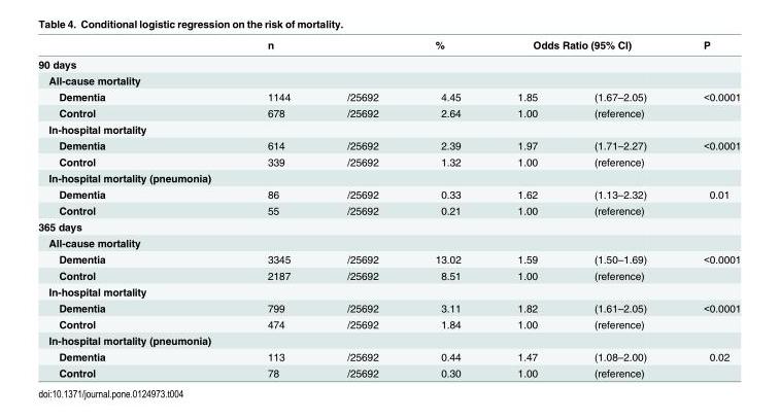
<table><thead><tr><td rowspan="2">90 days</td><td rowspan="2">n</td><td rowspan="2"></td><td rowspan="2">%</td><td colspan="2">Odds Ratio (95% CI)</td><td rowspan="2">P</td></tr><tr><td></td><td></td></tr></thead><tbody><tr><td colspan="7">All-cause mortality</td></tr><tr><td>Dementia</td><td>1144</td><td>/25692</td><td>4.45</td><td>1.85</td><td>(1.67–2.05)</td><td>&lt;0.0001</td></tr><tr><td>Control</td><td>678</td><td>/25692</td><td>2.64</td><td>1.00</td><td>(reference)</td><td></td></tr><tr><td colspan="7">In-hospital mortality</td></tr><tr><td>Dementia</td><td>614</td><td>/25692</td><td>2.39</td><td>1.97</td><td>(1.71–2.27)</td><td>&lt;0.0001</td></tr><tr><td>Control</td><td>339</td><td>/25692</td><td>1.32</td><td>1.00</td><td>(reference)</td><td></td></tr><tr><td colspan="7">In-hospital mortality (pneumonia)</td></tr><tr><td>Dementia</td><td>86</td><td>/25692</td><td>0.33</td><td>1.62</td><td>(1.13–2.32)</td><td>0.01</td></tr><tr><td>Control</td><td>55</td><td>/25692</td><td>0.21</td><td>1.00</td><td>(reference)</td><td></td></tr><tr><td colspan="7">365 days</td></tr><tr><td colspan="7">All-cause mortality</td></tr><tr><td>Dementia</td><td>3345</td><td>/25692</td><td>13.02</td><td>1.59</td><td>(1.50–1.69)</td><td>&lt;0.0001</td></tr><tr><td>Control</td><td>2187</td><td>/25692</td><td>8.51</td><td>1.00</td><td>(reference)</td><td></td></tr><tr><td colspan="7">In-hospital mortality</td></tr><tr><td>Dementia</td><td>799</td><td>/25692</td><td>3.11</td><td>1.82</td><td>(1.61–2.05)</td><td>&lt;0.0001</td></tr><tr><td>Control</td><td>474</td><td>/25692</td><td>1.84</td><td>1.00</td><td>(reference)</td><td></td></tr><tr><td colspan="7">In-hospital mortality (pneumonia)</td></tr><tr><td>Dementia</td><td>113</td><td>/25692</td><td>0.44</td><td>1.47</td><td>(1.08–2.00)</td><td>0.02</td></tr><tr><td>Control</td><td>78</td><td>/25692</td><td>0.30</td><td>1.00</td><td>(reference)</td><td></td></tr></tbody></table>